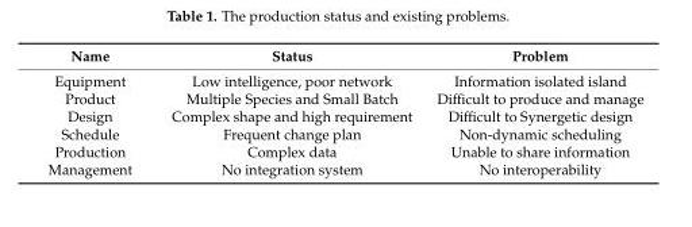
<table><thead><tr><td>Name</td><td>Status</td><td>Problem</td></tr></thead><tbody><tr><td>Equipment</td><td>Low intelligence, poor network</td><td>Information isolated island</td></tr><tr><td>Product</td><td>Multiple Species and Small Batch</td><td>Difficult to produce and manage</td></tr><tr><td>Design</td><td>Complex shape and high requirement</td><td>Difficult to Synergetic design</td></tr><tr><td>Schedule</td><td>Frequent change plan</td><td>Non-dynamic scheduling</td></tr><tr><td>Production</td><td>Complex data</td><td>Unable to share information</td></tr><tr><td>Management</td><td>No integration system</td><td>No interoperability</td></tr></tbody></table>